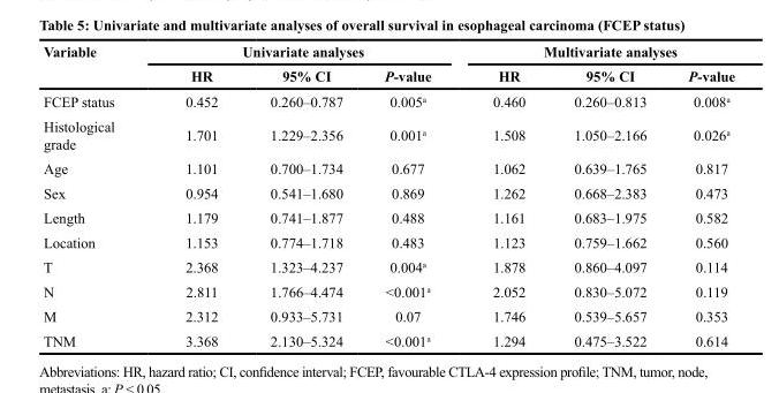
<table><thead><tr><td rowspan="2">Variable</td><td colspan="3">Univariate analyses</td><td colspan="3">Multivariate analyses</td></tr><tr><td>HR</td><td>95% CI</td><td>P-value</td><td>HR</td><td>95% CI</td><td>P-value</td></tr></thead><tbody><tr><td>FCEP status</td><td>0.452</td><td>0.260–0.787</td><td>0.005<sup>a</sup></td><td>0.460</td><td>0.260–0.813</td><td>0.008<sup>a</sup></td></tr><tr><td>Histological grade</td><td>1.701</td><td>1.229–2.356</td><td>0.001<sup>a</sup></td><td>1.508</td><td>1.050–2.166</td><td>0.026<sup>a</sup></td></tr><tr><td>Age</td><td>1.101</td><td>0.700–1.734</td><td>0.677</td><td>1.062</td><td>0.639–1.765</td><td>0.817</td></tr><tr><td>Sex</td><td>0.954</td><td>0.541–1.680</td><td>0.869</td><td>1.262</td><td>0.668–2.383</td><td>0.473</td></tr><tr><td>Length</td><td>1.179</td><td>0.741–1.877</td><td>0.488</td><td>1.161</td><td>0.683–1.975</td><td>0.582</td></tr><tr><td>Location</td><td>1.153</td><td>0.774–1.718</td><td>0.483</td><td>1.123</td><td>0.759–1.662</td><td>0.560</td></tr><tr><td>T</td><td>2.368</td><td>1.323–4.237</td><td>0.004<sup>a</sup></td><td>1.878</td><td>0.860–4.097</td><td>0.114</td></tr><tr><td>N</td><td>2.811</td><td>1.766–4.474</td><td>&lt;0.001<sup>a</sup></td><td>2.052</td><td>0.830–5.072</td><td>0.119</td></tr><tr><td>M</td><td>2.312</td><td>0.933–5.731</td><td>0.07</td><td>1.746</td><td>0.539–5.657</td><td>0.353</td></tr><tr><td>TNM</td><td>3.368</td><td>2.130–5.324</td><td>&lt;0.001<sup>a</sup></td><td>1.294</td><td>0.475–3.522</td><td>0.614</td></tr></tbody></table>